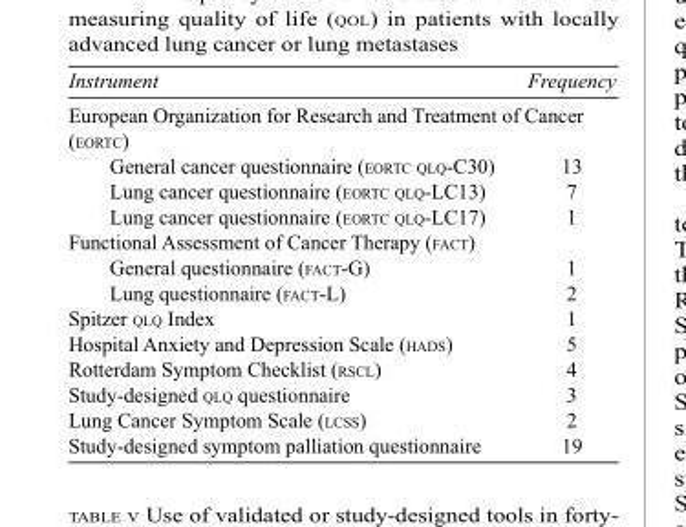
<table><thead><tr><td>Instrument</td><td>Frequency</td></tr></thead><tbody><tr><td colspan="2">European Organization for Research and Treatment of Cancer (eortc)</td></tr><tr><td>General cancer questionnaire (eortc qlq-C30)</td><td>13</td></tr><tr><td>Lung cancer questionnaire (eortc qlq-LC13)</td><td>7</td></tr><tr><td>Lung cancer questionnaire (eortc qlq-LC17)</td><td>1</td></tr><tr><td colspan="2">Functional Assessment of Cancer Therapy (fact)</td></tr><tr><td>General questionnaire (fact-G)</td><td>1</td></tr><tr><td>Lung questionnaire (fact-L)</td><td>2</td></tr><tr><td>Spitzer qlq Index</td><td>1</td></tr><tr><td>Hospital Anxiety and Depression Scale (hads)</td><td>5</td></tr><tr><td>Rotterdam Symptom Checklist (rscl)</td><td>4</td></tr><tr><td>Study-designed qlq questionnaire</td><td>3</td></tr><tr><td>Lung Cancer Symptom Scale (lcss)</td><td>2</td></tr><tr><td>Study-designed symptom palliation questionnaire</td><td>19</td></tr></tbody></table>